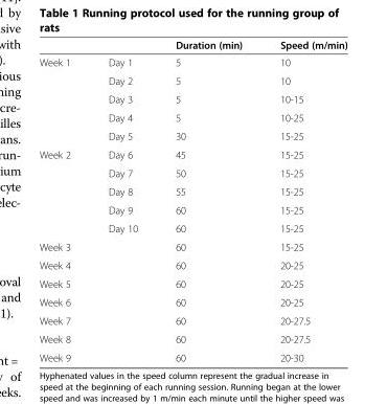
<table><thead><tr><td></td><td></td><td>Duration (min)</td><td>Speed (m/min)</td></tr></thead><tbody><tr><td rowspan="5">Week 1</td><td>Day 1</td><td>5</td><td>10</td></tr><tr><td>Day 2</td><td>5</td><td>10</td></tr><tr><td>Day 3</td><td>5</td><td>10-15</td></tr><tr><td>Day 4</td><td>5</td><td>10-25</td></tr><tr><td>Day 5</td><td>30</td><td>15-25</td></tr><tr><td rowspan="5">Week 2</td><td>Day 6</td><td>45</td><td>15-25</td></tr><tr><td>Day 7</td><td>50</td><td>15-25</td></tr><tr><td>Day 8</td><td>55</td><td>15-25</td></tr><tr><td>Day 9</td><td>60</td><td>15-25</td></tr><tr><td>Day 10</td><td>60</td><td>15-25</td></tr><tr><td>Week 3</td><td></td><td>60</td><td>15-25</td></tr><tr><td>Week 4</td><td></td><td>60</td><td>20-25</td></tr><tr><td>Week 5</td><td></td><td>60</td><td>20-25</td></tr><tr><td>Week 6</td><td></td><td>60</td><td>20-25</td></tr><tr><td>Week 7</td><td></td><td>60</td><td>20-27.5</td></tr><tr><td>Week 8</td><td></td><td>60</td><td>20-27.5</td></tr><tr><td>Week 9</td><td></td><td>60</td><td>20-30</td></tr></tbody></table>